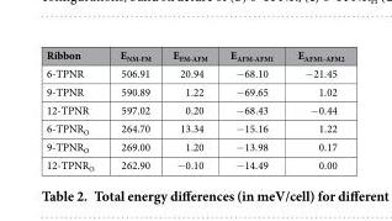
<table><thead><tr><td>Ribbon</td><td>E<sub>NM-FM</sub></td><td>E<sub>FM-AFM</sub></td><td>E<sub>AFM-AFM1</sub></td><td>E<sub>AFM1-AFM2</sub></td></tr></thead><tbody><tr><td>6-TPNR</td><td>506.91</td><td>20.94</td><td>− 68.10</td><td>− 21.45</td></tr><tr><td>9-TPNR</td><td>590.89</td><td>1.22</td><td>− 69.65</td><td>1.02</td></tr><tr><td>12-TPNR</td><td>597.02</td><td>0.20</td><td>− 68.43</td><td>− 0.44</td></tr><tr><td>6-TPNR<sub>O</sub></td><td>264.70</td><td>13.34</td><td>− 15.16</td><td>1.22</td></tr><tr><td>9-TPNR<sub>O</sub></td><td>269.00</td><td>1.20</td><td>− 13.98</td><td>0.17</td></tr><tr><td>12-TPNR<sub>O</sub></td><td>262.90</td><td>− 0.10</td><td>− 14.49</td><td>0.00</td></tr></tbody></table>